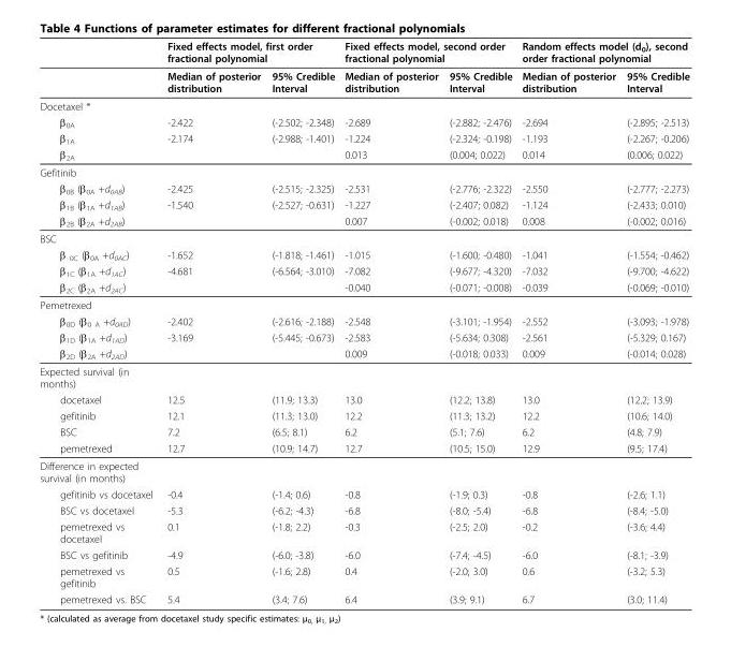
<table><thead><tr><td rowspan="2"></td><td colspan="2">Fixed effects model, first order fractional polynomial</td><td colspan="2">Fixed effects model, second order fractional polynomial</td><td colspan="2">Random effects model (d<sub>0</sub>), second order fractional polynomial</td></tr><tr><td>Median of posterior distribution</td><td>95% Credible Interval</td><td>Median of posterior distribution</td><td>95% Credible Interval</td><td>Median of posterior distribution</td><td>95% Credible Interval</td></tr></thead><tbody><tr><td colspan="7">Docetaxel *</td></tr><tr><td>β<sub>0A</sub></td><td>-2.422</td><td>(-2.502; -2.348)</td><td>-2.689</td><td>(-2.882; -2.476)</td><td>-2.694</td><td>(-2.895; -2.513)</td></tr><tr><td>β<sub>1A</sub></td><td>-2.174</td><td>(-2.988; -1.401)</td><td>-1.224</td><td>(-2.324; -0.198)</td><td>-1.193</td><td>(-2.267; -0.206)</td></tr><tr><td>β<sub>2A</sub></td><td></td><td></td><td>0.013</td><td>(0.004; 0.022)</td><td>0.014</td><td>(0.006; 0.022)</td></tr><tr><td colspan="7">Gefitinib</td></tr><tr><td>β<sub>0B</sub> (β<sub>0A</sub> +d<sub>0AB</sub>)</td><td>-2.425</td><td>(-2.515; -2.325)</td><td>-2.531</td><td>(-2.776; -2.322)</td><td>-2.550</td><td>(-2.777; -2.273)</td></tr><tr><td>β<sub>1B</sub> (β<sub>1A</sub> +d<sub>1AB</sub>)</td><td>-1.540</td><td>(-2.527; -0.631)</td><td>-1.227</td><td>(-2.407; 0.082)</td><td>-1.124</td><td>(-2.433; 0.010)</td></tr><tr><td>β<sub>2B</sub> (β<sub>2A</sub> +d<sub>2AB</sub>)</td><td></td><td></td><td>0.007</td><td>(-0.002; 0.018)</td><td>0.008</td><td>(-0.002; 0.016)</td></tr><tr><td colspan="7">BSC</td></tr><tr><td>β <sub>0C</sub> (β<sub>0A</sub> +d<sub>0AC</sub>)</td><td>-1.652</td><td>(-1.818; -1.461)</td><td>-1.015</td><td>(-1.600; -0.480)</td><td>-1.041</td><td>(-1.554; -0.462)</td></tr><tr><td>β<sub>1C</sub> (β<sub>1A</sub> +d<sub>1AC</sub>)</td><td>-4.681</td><td>(-6.564; -3.010)</td><td>-7.082</td><td>(-9.677; -4.320)</td><td>-7.032</td><td>(-9.700; -4.622)</td></tr><tr><td>β<sub>2C</sub> (β<sub>2A</sub> +d<sub>2AC</sub>)</td><td></td><td></td><td>-0.040</td><td>(-0.071; -0.008)</td><td>-0.039</td><td>(-0.069; -0.010)</td></tr><tr><td colspan="7">Pemetrexed</td></tr><tr><td>β<sub>0D</sub> (β<sub>0 A</sub> +d<sub>0AD</sub>)</td><td>-2.402</td><td>(-2.616; -2.188)</td><td>-2.548</td><td>(-3.101; -1.954)</td><td>-2.552</td><td>(-3.093; -1.978)</td></tr><tr><td>β<sub>1D</sub> (β<sub>1A</sub> +d<sub>1AD</sub>)</td><td>-3.169</td><td>(-5.445; -0.673)</td><td>-2.583</td><td>(-5.634; 0.308)</td><td>-2.561</td><td>(-5.329; 0.167)</td></tr><tr><td>β<sub>2D</sub> (β<sub>2A</sub> +d<sub>2AD</sub>)</td><td></td><td></td><td>0.009</td><td>(-0.018; 0.033)</td><td>0.009</td><td>(-0.014; 0.028)</td></tr><tr><td colspan="7">Expected survival (in months)</td></tr><tr><td>docetaxel</td><td>12.5</td><td>(11.9; 13.3)</td><td>13.0</td><td>(12.2; 13.8)</td><td>13.0</td><td>(12.2; 13.9)</td></tr><tr><td>gefitinib</td><td>12.1</td><td>(11.3; 13.0)</td><td>12.2</td><td>(11.3; 13.2)</td><td>12.2</td><td>(10.6; 14.0)</td></tr><tr><td>BSC</td><td>7.2</td><td>(6.5; 8.1)</td><td>6.2</td><td>(5.1; 7.6)</td><td>6.2</td><td>(4.8; 7.9)</td></tr><tr><td>pemetrexed</td><td>12.7</td><td>(10.9; 14.7)</td><td>12.7</td><td>(10.5; 15.0)</td><td>12.9</td><td>(9.5; 17.4)</td></tr><tr><td colspan="7">Difference in expected survival (in months)</td></tr><tr><td>gefitinib vs docetaxel</td><td>-0.4</td><td>(-1.4; 0.6)</td><td>-0.8</td><td>(-1.9; 0.3)</td><td>-0.8</td><td>(-2.6; 1.1)</td></tr><tr><td>BSC vs docetaxel</td><td>-5.3</td><td>(-6.2; -4.3)</td><td>-6.8</td><td>(-8.0; -5.4)</td><td>-6.8</td><td>(-8.4; -5.0)</td></tr><tr><td>pemetrexed vs docetaxel</td><td>0.1</td><td>(-1.8; 2.2)</td><td>-0.3</td><td>(-2.5; 2.0)</td><td>-0.2</td><td>(-3.6; 4.4)</td></tr><tr><td>BSC vs gefitinib</td><td>-4.9</td><td>(-6.0; -3.8)</td><td>-6.0</td><td>(-7.4; -4.5)</td><td>-6.0</td><td>(-8.1; -3.9)</td></tr><tr><td>pemetrexed vs gefitinib</td><td>0.5</td><td>(-1.6; 2.8)</td><td>0.4</td><td>(-2.0; 3.0)</td><td>0.6</td><td>(-3.2; 5.3)</td></tr><tr><td>pemetrexed vs. BSC</td><td>5.4</td><td>(3.4; 7.6)</td><td>6.4</td><td>(3.9; 9.1)</td><td>6.7</td><td>(3.0; 11.4)</td></tr></tbody></table>